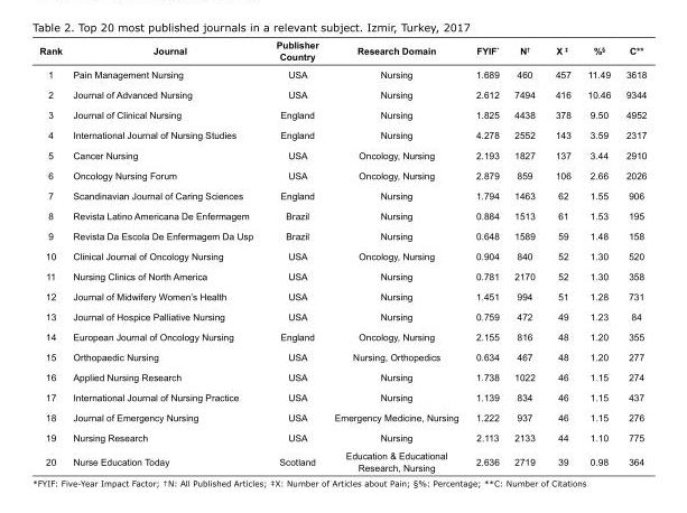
<table><tbody><tr><td>Rank</td><td>Journal</td><td>Publisher Country</td><td>Research Domain</td><td>FYIF*</td><td>N<sup>†</sup></td><td>X <sup>‡</sup></td><td>%<sup>§</sup></td><td>C**</td></tr><tr><td>1</td><td>Pain Management Nursing</td><td>USA</td><td>Nursing</td><td>1.689</td><td>460</td><td>457</td><td>11.49</td><td>3618</td></tr><tr><td>2</td><td>Journal of Advanced Nursing</td><td>USA</td><td>Nursing</td><td>2.612</td><td>7494</td><td>416</td><td>10.46</td><td>9344</td></tr><tr><td>3</td><td>Journal of Clinical Nursing</td><td>England</td><td>Nursing</td><td>1.825</td><td>4438</td><td>378</td><td>9.50</td><td>4952</td></tr><tr><td>4</td><td>International Journal of Nursing Studies</td><td>England</td><td>Nursing</td><td>4.278</td><td>2552</td><td>143</td><td>3.59</td><td>2317</td></tr><tr><td>5</td><td>Cancer Nursing</td><td>USA</td><td>Oncology, Nursing</td><td>2.193</td><td>1827</td><td>137</td><td>3.44</td><td>2910</td></tr><tr><td>6</td><td>Oncology Nursing Forum</td><td>USA</td><td>Oncology, Nursing</td><td>2.879</td><td>859</td><td>106</td><td>2.66</td><td>2026</td></tr><tr><td>7</td><td>Scandinavian Journal of Caring Sciences</td><td>England</td><td>Nursing</td><td>1.794</td><td>1463</td><td>62</td><td>1.55</td><td>906</td></tr><tr><td>8</td><td>Revista Latino Americana De Enfermagem</td><td>Brazil</td><td>Nursing</td><td>0.884</td><td>1513</td><td>61</td><td>1.53</td><td>195</td></tr><tr><td>9</td><td>Revista Da Escola De Enfermagem Da Usp</td><td>Brazil</td><td>Nursing</td><td>0.648</td><td>1589</td><td>59</td><td>1.48</td><td>158</td></tr><tr><td>10</td><td>Clinical Journal of Oncology Nursing</td><td>USA</td><td>Oncology, Nursing</td><td>0.904</td><td>840</td><td>52</td><td>1.30</td><td>520</td></tr><tr><td>11</td><td>Nursing Clinics of North America</td><td>USA</td><td>Nursing</td><td>0.781</td><td>2170</td><td>52</td><td>1.30</td><td>358</td></tr><tr><td>12</td><td>Journal of Midwifery Women’s Health</td><td>USA</td><td>Nursing</td><td>1.451</td><td>994</td><td>51</td><td>1.28</td><td>731</td></tr><tr><td>13</td><td>Journal of Hospice Palliative Nursing</td><td>USA</td><td>Nursing</td><td>0.759</td><td>472</td><td>49</td><td>1.23</td><td>84</td></tr><tr><td>14</td><td>European Journal of Oncology Nursing</td><td>England</td><td>Oncology, Nursing</td><td>2.155</td><td>816</td><td>48</td><td>1.20</td><td>355</td></tr><tr><td>15</td><td>Orthopaedic Nursing</td><td>USA</td><td>Nursing, Orthopedics</td><td>0.634</td><td>467</td><td>48</td><td>1.20</td><td>277</td></tr><tr><td>16</td><td>Applied Nursing Research</td><td>USA</td><td>Nursing</td><td>1.738</td><td>1022</td><td>46</td><td>1.15</td><td>274</td></tr><tr><td>17</td><td>International Journal of Nursing Practice</td><td>USA</td><td>Nursing</td><td>1.139</td><td>834</td><td>46</td><td>1.15</td><td>437</td></tr><tr><td>18</td><td>Journal of Emergency Nursing</td><td>USA</td><td>Emergency Medicine, Nursing</td><td>1.222</td><td>937</td><td>46</td><td>1.15</td><td>276</td></tr><tr><td>19</td><td>Nursing Research</td><td>USA</td><td>Nursing</td><td>2.113</td><td>2133</td><td>44</td><td>1.10</td><td>775</td></tr><tr><td>20</td><td>Nurse Education Today</td><td>Scotland</td><td>Education &amp; Educational Research, Nursing</td><td>2.636</td><td>2719</td><td>39</td><td>0.98</td><td>364</td></tr></tbody></table>